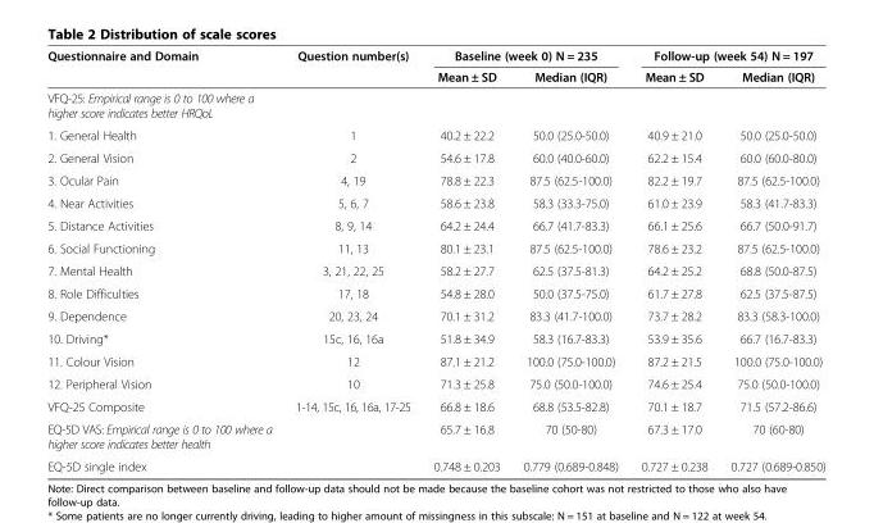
<table><thead><tr><td rowspan="2">Questionnaire and Domain</td><td rowspan="2">Question number(s)</td><td colspan="2">Baseline (week 0) N = 235</td><td colspan="2">Follow-up (week 54) N = 197</td></tr><tr><td>Mean ± SD</td><td>Median (IQR)</td><td>Mean ± SD</td><td>Median (IQR)</td></tr></thead><tbody><tr><td colspan="6">VFQ-25: Empirical range is 0 to 100 where a higher score indicates better HRQoL</td></tr><tr><td>1. General Health</td><td>1</td><td>40.2 ± 22.2</td><td>50.0 (25.0-50.0)</td><td>40.9 ± 21.0</td><td>50.0 (25.0-50.0)</td></tr><tr><td>2. General Vision</td><td>2</td><td>54.6 ± 17.8</td><td>60.0 (40.0-60.0)</td><td>62.2 ± 15.4</td><td>60.0 (60.0-80.0)</td></tr><tr><td>3. Ocular Pain</td><td>4, 19</td><td>78.8 ± 22.3</td><td>87.5 (62.5-100.0)</td><td>82.2 ± 19.7</td><td>87.5 (62.5-100.0)</td></tr><tr><td>4. Near Activities</td><td>5, 6, 7</td><td>58.6 ± 23.8</td><td>58.3 (33.3-75.0)</td><td>61.0 ± 23.9</td><td>58.3 (41.7-83.3)</td></tr><tr><td>5. Distance Activities</td><td>8, 9, 14</td><td>64.2 ± 24.4</td><td>66.7 (41.7-83.3)</td><td>66.1 ± 25.6</td><td>66.7 (50.0-91.7)</td></tr><tr><td>6. Social Functioning</td><td>11, 13</td><td>80.1 ± 23.1</td><td>87.5 (62.5-100.0)</td><td>78.6 ± 23.2</td><td>87.5 (62.5-100.0)</td></tr><tr><td>7. Mental Health</td><td>3, 21, 22, 25</td><td>58.2 ± 27.7</td><td>62.5 (37.5-81.3)</td><td>64.2 ± 25.2</td><td>68.8 (50.0-87.5)</td></tr><tr><td>8. Role Difficulties</td><td>17, 18</td><td>54.8 ± 28.0</td><td>50.0 (37.5-75.0)</td><td>61.7 ± 27.8</td><td>62.5 (37.5-87.5)</td></tr><tr><td>9. Dependence</td><td>20, 23, 24</td><td>70.1 ± 31.2</td><td>83.3 (41.7-100.0)</td><td>73.7 ± 28.2</td><td>83.3 (58.3-100.0)</td></tr><tr><td>10. Driving*</td><td>15c, 16, 16a</td><td>51.8 ± 34.9</td><td>58.3 (16.7-83.3)</td><td>53.9 ± 35.6</td><td>66.7 (16.7-83.3)</td></tr><tr><td>11. Colour Vision</td><td>12</td><td>87.1 ± 21.2</td><td>100.0 (75.0-100.0)</td><td>87.2 ± 21.5</td><td>100.0 (75.0-100.0)</td></tr><tr><td>12. Peripheral Vision</td><td>10</td><td>71.3 ± 25.8</td><td>75.0 (50.0-100.0)</td><td>74.6 ± 25.4</td><td>75.0 (50.0-100.0)</td></tr><tr><td>VFQ-25 Composite</td><td>1-14, 15c, 16, 16a, 17-25</td><td>66.8 ± 18.6</td><td>68.8 (53.5-82.8)</td><td>70.1 ± 18.7</td><td>71.5 (57.2-86.6)</td></tr><tr><td>EQ-5D VAS: Empirical range is 0 to 100 where a higher score indicates better health</td><td></td><td>65.7 ± 16.8</td><td>70 (50-80)</td><td>67.3 ± 17.0</td><td>70 (60-80)</td></tr><tr><td>EQ-5D single index</td><td></td><td>0.748 ± 0.203</td><td>0.779 (0.689-0.848)</td><td>0.727 ± 0.238</td><td>0.727 (0.689-0.850)</td></tr></tbody></table>